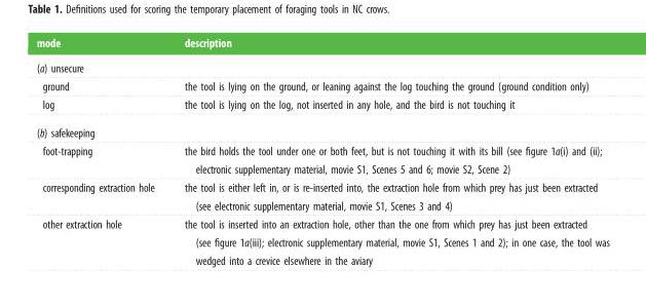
<table><thead><tr><td>mode</td><td>description</td></tr></thead><tbody><tr><td colspan="2">(a) unsecure</td></tr><tr><td>ground</td><td>the tool is lying on the ground, or leaning against the log touching the ground (ground condition only)</td></tr><tr><td>log</td><td>the tool is lying on the log, not inserted in any hole, and the bird is not touching it</td></tr><tr><td colspan="2">(b) safekeeping</td></tr><tr><td>foot-trapping</td><td>the bird holds the tool under one or both feet, but is not touching it with its bill (see figure 1a(i) and (ii); electronic supplementary material, movie S1, Scenes 5 and 6; movie S2, Scene 2)</td></tr><tr><td>corresponding extraction hole</td><td>the tool is either left in, or is re-inserted into, the extraction hole from which prey has just been extracted (see electronic supplementary material, movie S1, Scenes 3 and 4)</td></tr><tr><td>other extraction hole</td><td>the tool is inserted into an extraction hole, other than the one from which prey has just been extracted (see figure 1a(iii); electronic supplementary material, movie S1, Scenes 1 and 2); in one case, the tool was wedged into a crevice elsewhere in the aviary</td></tr></tbody></table>